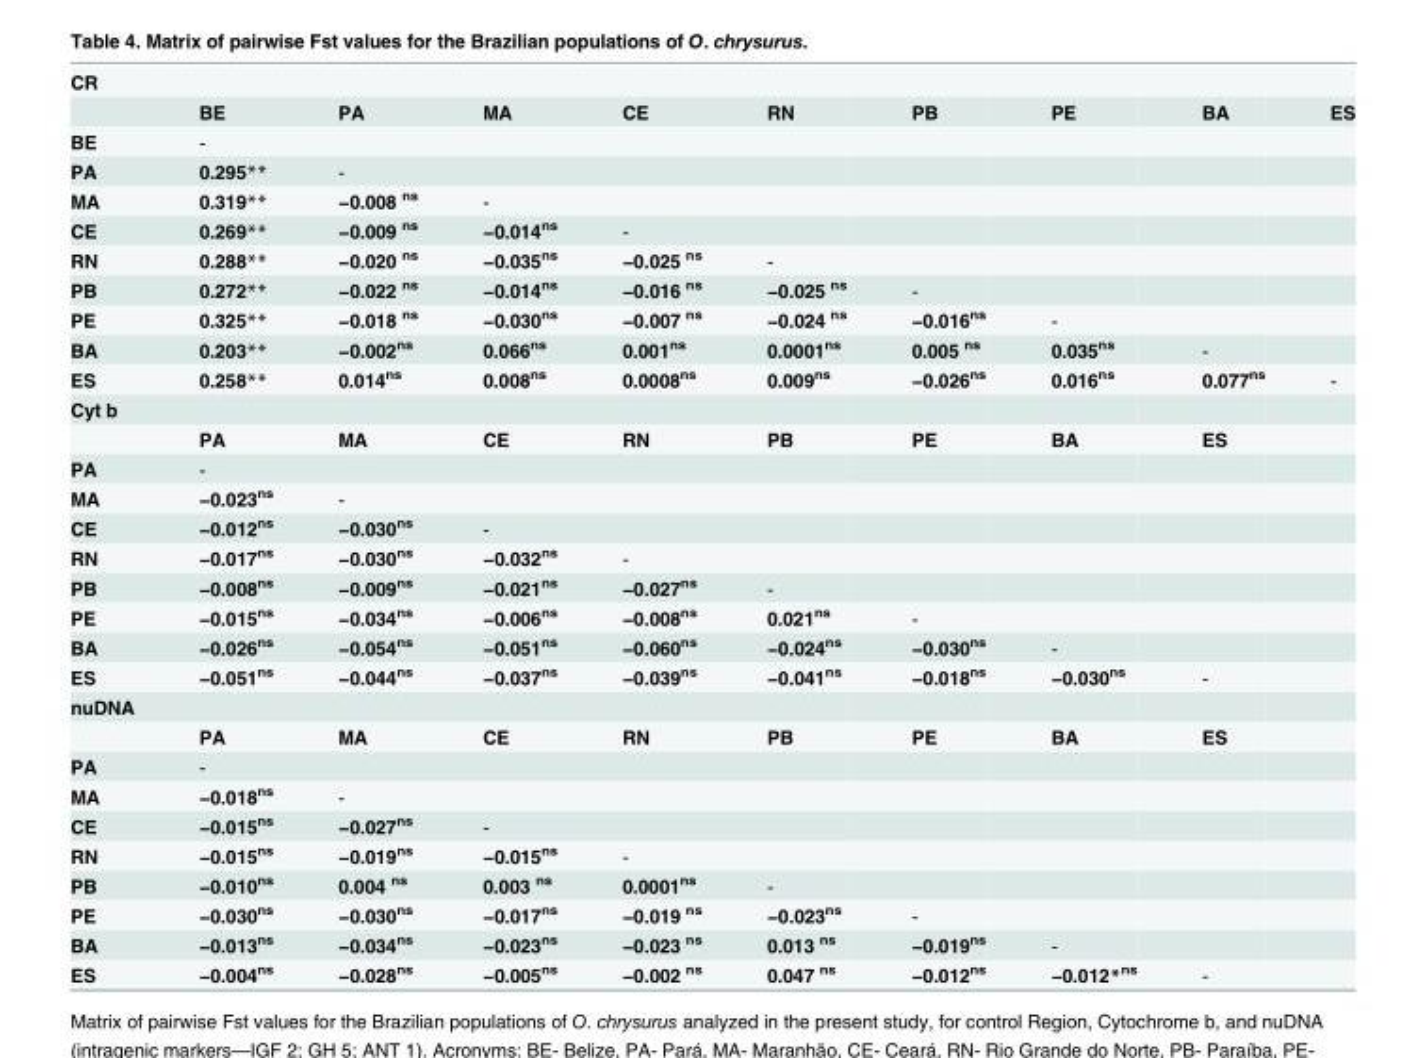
<table><tbody><tr><td colspan="10">CR</td></tr><tr><td></td><td>BE</td><td>PA</td><td>MA</td><td>CE</td><td>RN</td><td>PB</td><td>PE</td><td>BA</td><td>ES</td></tr><tr><td>BE</td><td>-</td><td></td><td></td><td></td><td></td><td></td><td></td><td></td><td></td></tr><tr><td>PA</td><td>0.295**</td><td>-</td><td></td><td></td><td></td><td></td><td></td><td></td><td></td></tr><tr><td>MA</td><td>0.319**</td><td>−0.008 <sup>ns</sup></td><td>-</td><td></td><td></td><td></td><td></td><td></td><td></td></tr><tr><td>CE</td><td>0.269**</td><td>−0.009 <sup>ns</sup></td><td>−0.014<sup>ns</sup></td><td>-</td><td></td><td></td><td></td><td></td><td></td></tr><tr><td>RN</td><td>0.288**</td><td>−0.020 <sup>ns</sup></td><td>−0.035<sup>ns</sup></td><td>−0.025 <sup>ns</sup></td><td>-</td><td></td><td></td><td></td><td></td></tr><tr><td>PB</td><td>0.272**</td><td>−0.022 <sup>ns</sup></td><td>−0.014<sup>ns</sup></td><td>−0.016 <sup>ns</sup></td><td>−0.025 <sup>ns</sup></td><td>-</td><td></td><td></td><td></td></tr><tr><td>PE</td><td>0.325**</td><td>−0.018 <sup>ns</sup></td><td>−0.030<sup>ns</sup></td><td>−0.007 <sup>ns</sup></td><td>−0.024 <sup>ns</sup></td><td>−0.016<sup>ns</sup></td><td>-</td><td></td><td></td></tr><tr><td>BA</td><td>0.203**</td><td>−0.002<sup>ns</sup></td><td>0.066<sup>ns</sup></td><td>0.001<sup>ns</sup></td><td>0.0001<sup>ns</sup></td><td>0.005 <sup>ns</sup></td><td>0.035<sup>ns</sup></td><td>-</td><td></td></tr><tr><td>ES</td><td>0.258**</td><td>0.014<sup>ns</sup></td><td>0.008<sup>ns</sup></td><td>0.0008<sup>ns</sup></td><td>0.009<sup>ns</sup></td><td>−0.026<sup>ns</sup></td><td>0.016<sup>ns</sup></td><td>0.077<sup>ns</sup></td><td>-</td></tr><tr><td colspan="10">Cyt b</td></tr><tr><td></td><td>PA</td><td>MA</td><td>CE</td><td>RN</td><td>PB</td><td>PE</td><td>BA</td><td>ES</td><td></td></tr><tr><td>PA</td><td>-</td><td></td><td></td><td></td><td></td><td></td><td></td><td></td><td></td></tr><tr><td>MA</td><td>−0.023<sup>ns</sup></td><td>-</td><td></td><td></td><td></td><td></td><td></td><td></td><td></td></tr><tr><td>CE</td><td>−0.012<sup>ns</sup></td><td>−0.030<sup>ns</sup></td><td>-</td><td></td><td></td><td></td><td></td><td></td><td></td></tr><tr><td>RN</td><td>−0.017<sup>ns</sup></td><td>−0.030<sup>ns</sup></td><td>−0.032<sup>ns</sup></td><td>-</td><td></td><td></td><td></td><td></td><td></td></tr><tr><td>PB</td><td>−0.008<sup>ns</sup></td><td>−0.009<sup>ns</sup></td><td>−0.021<sup>ns</sup></td><td>−0.027<sup>ns</sup></td><td>-</td><td></td><td></td><td></td><td></td></tr><tr><td>PE</td><td>−0.015<sup>ns</sup></td><td>−0.034<sup>ns</sup></td><td>−0.006<sup>ns</sup></td><td>−0.008<sup>ns</sup></td><td>0.021<sup>ns</sup></td><td>-</td><td></td><td></td><td></td></tr><tr><td>BA</td><td>−0.026<sup>ns</sup></td><td>−0.054<sup>ns</sup></td><td>−0.051<sup>ns</sup></td><td>−0.060<sup>ns</sup></td><td>−0.024<sup>ns</sup></td><td>−0.030<sup>ns</sup></td><td>-</td><td></td><td></td></tr><tr><td>ES</td><td>−0.051<sup>ns</sup></td><td>−0.044<sup>ns</sup></td><td>−0.037<sup>ns</sup></td><td>−0.039<sup>ns</sup></td><td>−0.041<sup>ns</sup></td><td>−0.018<sup>ns</sup></td><td>−0.030<sup>ns</sup></td><td>-</td><td></td></tr><tr><td colspan="10">nuDNA</td></tr><tr><td></td><td>PA</td><td>MA</td><td>CE</td><td>RN</td><td>PB</td><td>PE</td><td>BA</td><td>ES</td><td></td></tr><tr><td>PA</td><td>-</td><td></td><td></td><td></td><td></td><td></td><td></td><td></td><td></td></tr><tr><td>MA</td><td>−0.018<sup>ns</sup></td><td>-</td><td></td><td></td><td></td><td></td><td></td><td></td><td></td></tr><tr><td>CE</td><td>−0.015<sup>ns</sup></td><td>−0.027<sup>ns</sup></td><td>-</td><td></td><td></td><td></td><td></td><td></td><td></td></tr><tr><td>RN</td><td>−0.015<sup>ns</sup></td><td>−0.019<sup>ns</sup></td><td>−0.015<sup>ns</sup></td><td>-</td><td></td><td></td><td></td><td></td><td></td></tr><tr><td>PB</td><td>−0.010<sup>ns</sup></td><td>0.004 <sup>ns</sup></td><td>0.003 <sup>ns</sup></td><td>0.0001<sup>ns</sup></td><td>-</td><td></td><td></td><td></td><td></td></tr><tr><td>PE</td><td>−0.030<sup>ns</sup></td><td>−0.030<sup>ns</sup></td><td>−0.017<sup>ns</sup></td><td>−0.019 <sup>ns</sup></td><td>−0.023<sup>ns</sup></td><td>-</td><td></td><td></td><td></td></tr><tr><td>BA</td><td>−0.013<sup>ns</sup></td><td>−0.034<sup>ns</sup></td><td>−0.023<sup>ns</sup></td><td>−0.023 <sup>ns</sup></td><td>0.013 <sup>ns</sup></td><td>−0.019<sup>ns</sup></td><td>-</td><td></td><td></td></tr><tr><td>ES</td><td>−0.004<sup>ns</sup></td><td>−0.028<sup>ns</sup></td><td>−0.005<sup>ns</sup></td><td>−0.002 <sup>ns</sup></td><td>0.047 <sup>ns</sup></td><td>−0.012<sup>ns</sup></td><td>−0.012*<sup>ns</sup></td><td>-</td><td></td></tr></tbody></table>